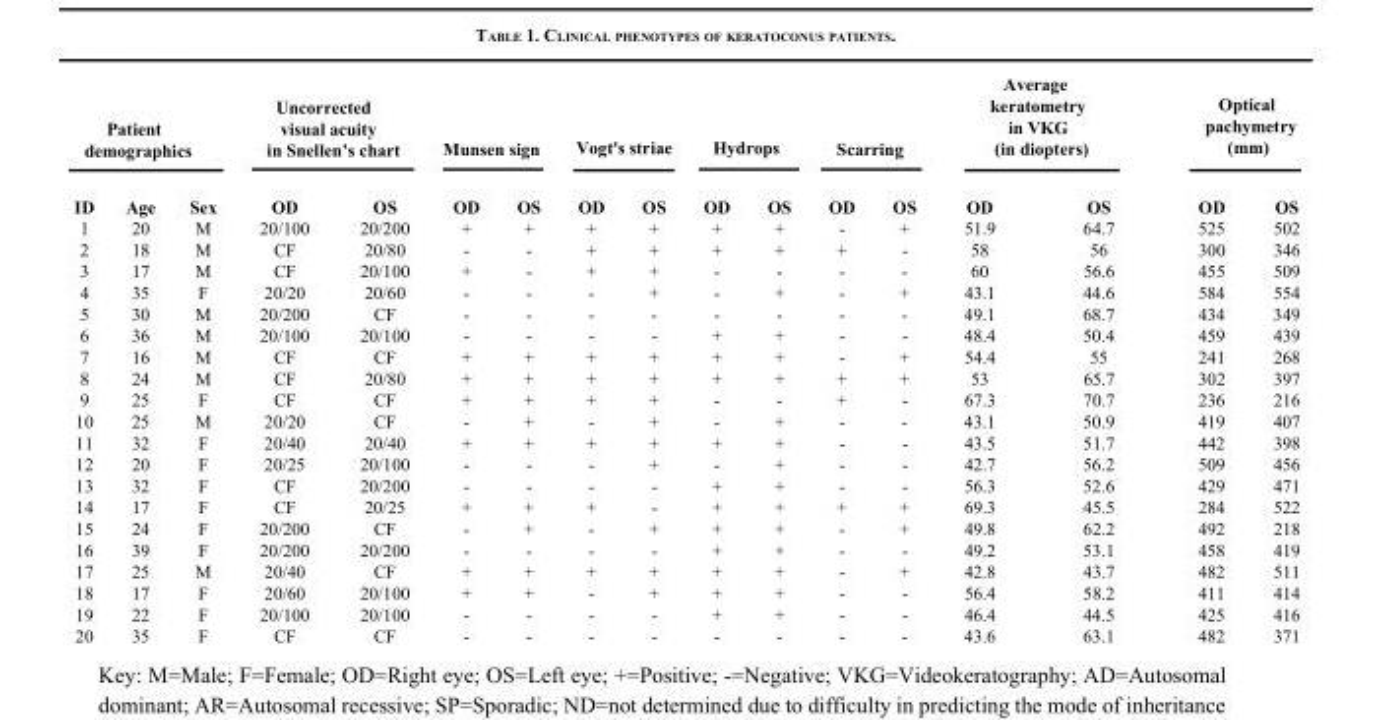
<table><thead><tr><td colspan="3">Patient demographics</td><td colspan="2">Uncorrected visual acuity in Snellen’s chart</td><td colspan="2">Munsen sign</td><td colspan="2">Vogt&#x27;s striae</td><td colspan="2">Hydrops</td><td colspan="2">Scarring</td><td colspan="2">Average keratometry in VKG (in diopters)</td><td colspan="2">Optical pachymetry (mm)</td></tr><tr><td>ID</td><td>Age</td><td>Sex</td><td>OD</td><td>OS</td><td>OD</td><td>OS</td><td>OD</td><td>OS</td><td>OD</td><td>OS</td><td>OD</td><td>OS</td><td>OD</td><td>OS</td><td>OD</td><td>OS</td></tr></thead><tbody><tr><td>1</td><td>20</td><td>M</td><td>20/100</td><td>20/200</td><td>+</td><td>+</td><td>+</td><td>+</td><td>+</td><td>+</td><td>-</td><td>+</td><td>51.9</td><td>64.7</td><td>525</td><td>502</td></tr><tr><td>2</td><td>18</td><td>M</td><td>CF</td><td>20/80</td><td>-</td><td>-</td><td>+</td><td>+</td><td>+</td><td>+</td><td>+</td><td>-</td><td>58</td><td>56</td><td>300</td><td>346</td></tr><tr><td>3</td><td>17</td><td>M</td><td>CF</td><td>20/100</td><td>+</td><td>-</td><td>+</td><td>+</td><td>-</td><td>-</td><td>-</td><td>-</td><td>60</td><td>56.6</td><td>455</td><td>509</td></tr><tr><td>4</td><td>35</td><td>F</td><td>20/20</td><td>20/60</td><td>-</td><td>-</td><td>-</td><td>+</td><td>-</td><td>+</td><td>-</td><td>+</td><td>43.1</td><td>44.6</td><td>584</td><td>554</td></tr><tr><td>5</td><td>30</td><td>M</td><td>20/200</td><td>CF</td><td>-</td><td>-</td><td>-</td><td>-</td><td>-</td><td>-</td><td>-</td><td>-</td><td>49.1</td><td>68.7</td><td>434</td><td>349</td></tr><tr><td>6</td><td>36</td><td>M</td><td>20/100</td><td>20/100</td><td>-</td><td>-</td><td>-</td><td>-</td><td>+</td><td>+</td><td>-</td><td>-</td><td>48.4</td><td>50.4</td><td>459</td><td>439</td></tr><tr><td>7</td><td>16</td><td>M</td><td>CF</td><td>CF</td><td>+</td><td>+</td><td>+</td><td>+</td><td>+</td><td>+</td><td>-</td><td>+</td><td>54.4</td><td>55</td><td>241</td><td>268</td></tr><tr><td>8</td><td>24</td><td>M</td><td>CF</td><td>20/80</td><td>+</td><td>+</td><td>+</td><td>+</td><td>+</td><td>+</td><td>+</td><td>+</td><td>53</td><td>65.7</td><td>302</td><td>397</td></tr><tr><td>9</td><td>25</td><td>F</td><td>CF</td><td>CF</td><td>+</td><td>+</td><td>+</td><td>+</td><td>-</td><td>-</td><td>+</td><td>-</td><td>67.3</td><td>70.7</td><td>236</td><td>216</td></tr><tr><td>10</td><td>25</td><td>M</td><td>20/20</td><td>CF</td><td>-</td><td>+</td><td>-</td><td>+</td><td>-</td><td>+</td><td>-</td><td>-</td><td>43.1</td><td>50.9</td><td>419</td><td>407</td></tr><tr><td>11</td><td>32</td><td>F</td><td>20/40</td><td>20/40</td><td>+</td><td>+</td><td>+</td><td>+</td><td>+</td><td>+</td><td>-</td><td>-</td><td>43.5</td><td>51.7</td><td>442</td><td>398</td></tr><tr><td>12</td><td>20</td><td>F</td><td>20/25</td><td>20/100</td><td>-</td><td>-</td><td>-</td><td>+</td><td>-</td><td>+</td><td>-</td><td>-</td><td>42.7</td><td>56.2</td><td>509</td><td>456</td></tr><tr><td>13</td><td>32</td><td>F</td><td>CF</td><td>20/200</td><td>-</td><td>-</td><td>-</td><td>-</td><td>+</td><td>+</td><td>-</td><td>-</td><td>56.3</td><td>52.6</td><td>429</td><td>471</td></tr><tr><td>14</td><td>17</td><td>F</td><td>CF</td><td>20/25</td><td>+</td><td>+</td><td>+</td><td>-</td><td>+</td><td>+</td><td>+</td><td>+</td><td>69.3</td><td>45.5</td><td>284</td><td>522</td></tr><tr><td>15</td><td>24</td><td>F</td><td>20/200</td><td>CF</td><td>-</td><td>+</td><td>-</td><td>+</td><td>+</td><td>+</td><td>-</td><td>+</td><td>49.8</td><td>62.2</td><td>492</td><td>218</td></tr><tr><td>16</td><td>39</td><td>F</td><td>20/200</td><td>20/200</td><td>-</td><td>-</td><td>-</td><td>-</td><td>+</td><td>+</td><td>-</td><td>-</td><td>49.2</td><td>53.1</td><td>458</td><td>419</td></tr><tr><td>17</td><td>25</td><td>M</td><td>20/40</td><td>CF</td><td>+</td><td>+</td><td>+</td><td>+</td><td>+</td><td>+</td><td>-</td><td>+</td><td>42.8</td><td>43.7</td><td>482</td><td>511</td></tr><tr><td>18</td><td>17</td><td>F</td><td>20/60</td><td>20/100</td><td>+</td><td>+</td><td>-</td><td>+</td><td>+</td><td>+</td><td>-</td><td>-</td><td>56.4</td><td>58.2</td><td>411</td><td>414</td></tr><tr><td>19</td><td>22</td><td>F</td><td>20/100</td><td>20/100</td><td>-</td><td>-</td><td>-</td><td>-</td><td>+</td><td>+</td><td>-</td><td>-</td><td>46.4</td><td>44.5</td><td>425</td><td>416</td></tr><tr><td>20</td><td>35</td><td>F</td><td>CF</td><td>CF</td><td>-</td><td>-</td><td>-</td><td>-</td><td>-</td><td>-</td><td>-</td><td>-</td><td>43.6</td><td>63.1</td><td>482</td><td>371</td></tr></tbody></table>